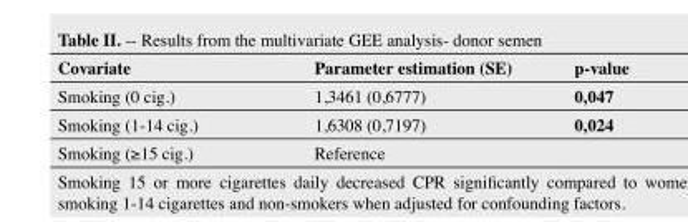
<table><thead><tr><td>Covariate</td><td>Parameter estimation (SE)</td><td>p-value</td></tr></thead><tbody><tr><td>Smoking (0 cig.)</td><td>1,3461 (0,6777)</td><td>0,047</td></tr><tr><td>Smoking (1-14 cig.)</td><td>1,6308 (0,7197)</td><td>0,024</td></tr><tr><td>Smoking (≥15 cig.)</td><td>Reference</td><td></td></tr></tbody></table>